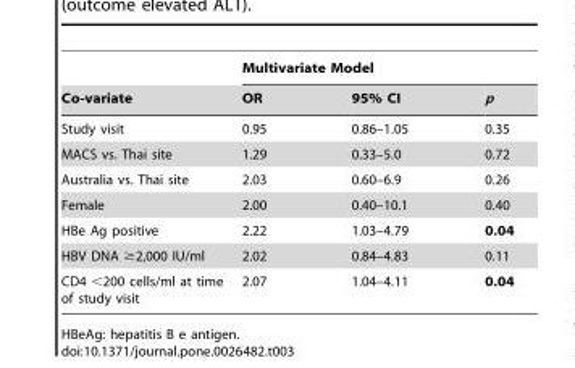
<table><thead><tr><td rowspan="2">Co-variate</td><td colspan="3">Multivariate Model</td></tr><tr><td>OR</td><td>95% CI</td><td>p</td></tr></thead><tbody><tr><td>Study visit</td><td>0.95</td><td>0.86–1.05</td><td>0.35</td></tr><tr><td>MACS vs. Thai site</td><td>1.29</td><td>0.33–5.0</td><td>0.72</td></tr><tr><td>Australia vs. Thai site</td><td>2.03</td><td>0.60–6.9</td><td>0.26</td></tr><tr><td>Female</td><td>2.00</td><td>0.40–10.1</td><td>0.40</td></tr><tr><td>HBe Ag positive</td><td>2.22</td><td>1.03–4.79</td><td>0.04</td></tr><tr><td>HBV DNA ≥2,000 IU/ml</td><td>2.02</td><td>0.84–4.83</td><td>0.11</td></tr><tr><td>CD4 &lt;200 cells/ml at time of study visit</td><td>2.07</td><td>1.04–4.11</td><td>0.04</td></tr></tbody></table>